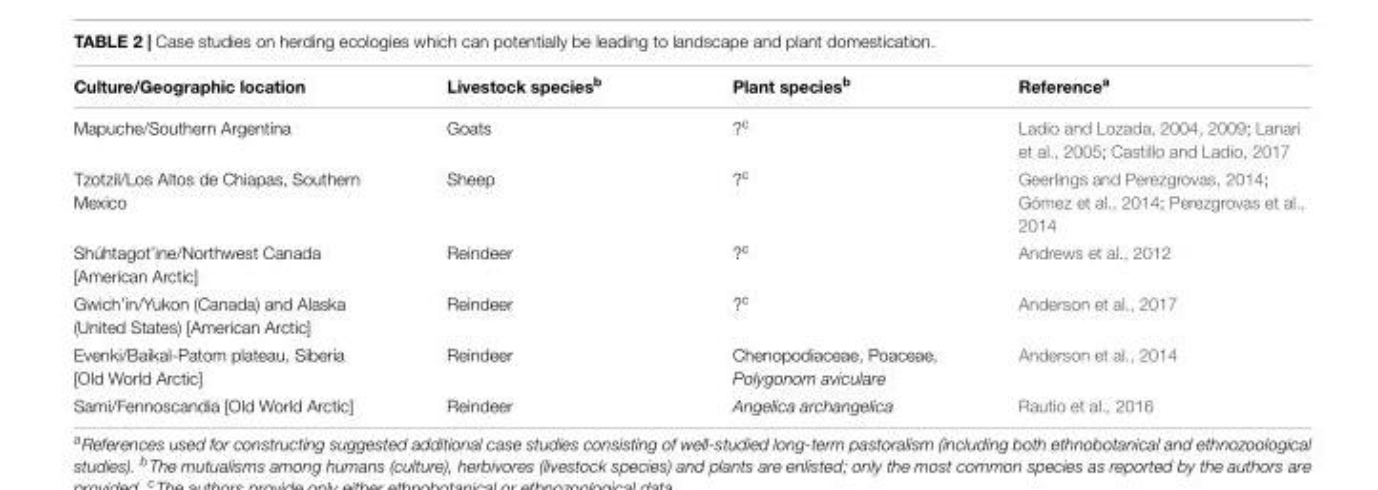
<table><thead><tr><td>Culture/Geographic location</td><td>Livestock species<sup>b</sup></td><td>Plant species<sup>b</sup></td><td>Reference<sup>a</sup></td></tr></thead><tbody><tr><td>Mapuche/Southern Argentina</td><td>Goats</td><td>?<sup>c</sup></td><td>Ladio and Lozada, 2004, 2009; Lanari et al., 2005; Castillo and Ladio, 2017</td></tr><tr><td>Tzotzil/Los Altos de Chiapas, Southern Mexico</td><td>Sheep</td><td>?<sup>c</sup></td><td>Geerlings and Perezgrovas, 2014; Gómez et al., 2014; Perezgrovas et al., 2014</td></tr><tr><td>Shúhtagot’ine/Northwest Canada [American Arctic]</td><td>Reindeer</td><td>?<sup>c</sup></td><td>Andrews et al., 2012</td></tr><tr><td>Gwich’in/Yukon (Canada) and Alaska (United States) [American Arctic]</td><td>Reindeer</td><td>?<sup>c</sup></td><td>Anderson et al., 2017</td></tr><tr><td>Evenki/Baikal-Patom plateau, Siberia [Old World Arctic]</td><td>Reindeer</td><td>Chenopodiaceae, Poaceae, Polygonom aviculare</td><td>Anderson et al., 2014</td></tr><tr><td>Sami/Fennoscandia [Old World Arctic]</td><td>Reindeer</td><td>Angelica archangelica</td><td>Rautio et al., 2016</td></tr></tbody></table>